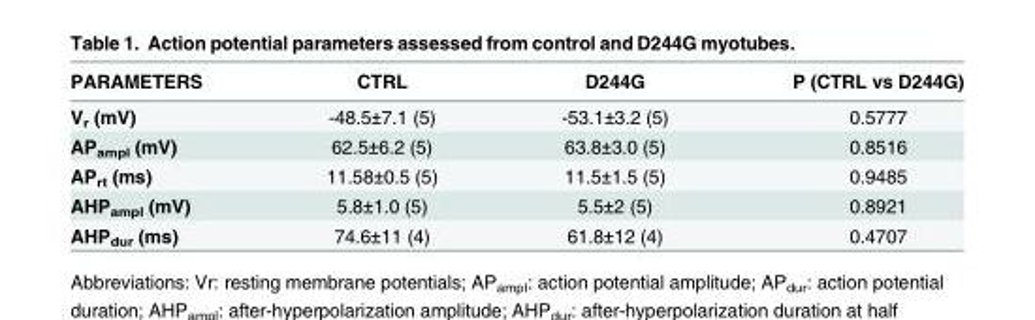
<table><thead><tr><td>PARAMETERS</td><td>CTRL</td><td>D244G</td><td>P (CTRL vs D244G)</td></tr></thead><tbody><tr><td>V<sub>r</sub> (mV)</td><td>-48.5±7.1 (5)</td><td>-53.1±3.2 (5)</td><td>0.5777</td></tr><tr><td>AP<sub>ampl</sub> (mV)</td><td>62.5±6.2 (5)</td><td>63.8±3.0 (5)</td><td>0.8516</td></tr><tr><td>AP<sub>rt</sub> (ms)</td><td>11.58±0.5 (5)</td><td>11.5±1.5 (5)</td><td>0.9485</td></tr><tr><td>AHP<sub>ampl</sub> (mV)</td><td>5.8±1.0 (5)</td><td>5.5±2 (5)</td><td>0.8921</td></tr><tr><td>AHP<sub>dur</sub> (ms)</td><td>74.6±11 (4)</td><td>61.8±12 (4)</td><td>0.4707</td></tr></tbody></table>